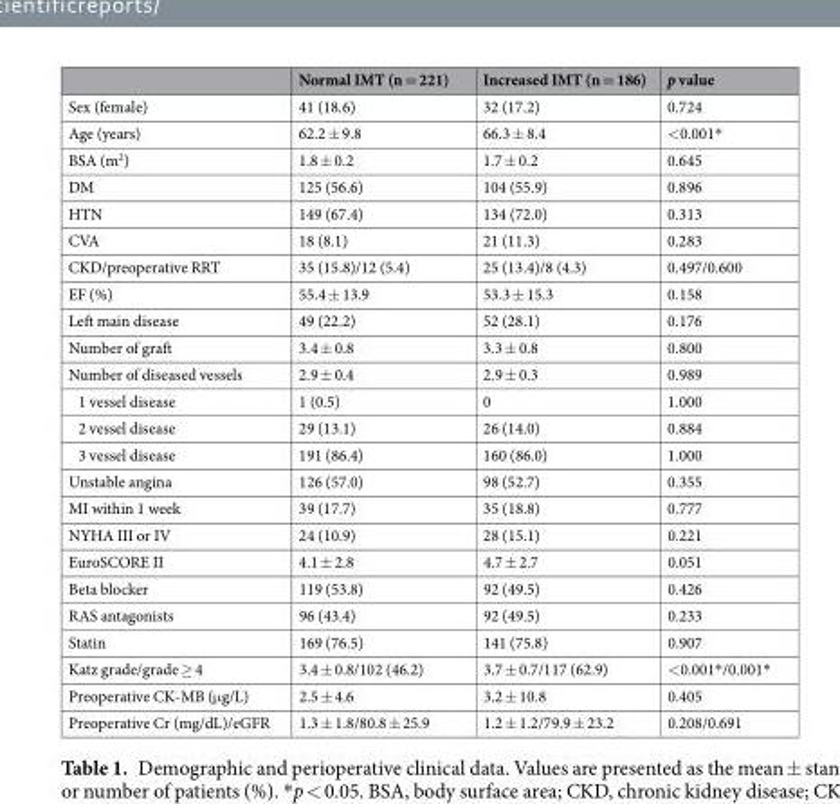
<table><thead><tr><td></td><td>Normal IMT (n = 221)</td><td>Increased IMT (n = 186)</td><td>p value</td></tr></thead><tbody><tr><td>Sex (female)</td><td>41 (18.6)</td><td>32 (17.2)</td><td>0.724</td></tr><tr><td>Age (years)</td><td>62.2 ± 9.8</td><td>66.3 ± 8.4</td><td>&lt;0.001*</td></tr><tr><td>BSA (m<sup>2</sup>)</td><td>1.8 ± 0.2</td><td>1.7 ± 0.2</td><td>0.645</td></tr><tr><td>DM</td><td>125 (56.6)</td><td>104 (55.9)</td><td>0.896</td></tr><tr><td>HTN</td><td>149 (67.4)</td><td>134 (72.0)</td><td>0.313</td></tr><tr><td>CVA</td><td>18 (8.1)</td><td>21 (11.3)</td><td>0.283</td></tr><tr><td>CKD/preoperative RRT</td><td>35 (15.8)/12 (5.4)</td><td>25 (13.4)/8 (4.3)</td><td>0.497/0.600</td></tr><tr><td>EF (%)</td><td>55.4 ± 13.9</td><td>53.3 ± 15.3</td><td>0.158</td></tr><tr><td>Left main disease</td><td>49 (22.2)</td><td>52 (28.1)</td><td>0.176</td></tr><tr><td>Number of graft</td><td>3.4 ± 0.8</td><td>3.3 ± 0.8</td><td>0.800</td></tr><tr><td>Number of diseased vessels</td><td>2.9 ± 0.4</td><td>2.9 ± 0.3</td><td>0.989</td></tr><tr><td>1 vessel disease</td><td>1 (0.5)</td><td>0</td><td>1.000</td></tr><tr><td>2 vessel disease</td><td>29 (13.1)</td><td>26 (14.0)</td><td>0.884</td></tr><tr><td>3 vessel disease</td><td>191 (86.4)</td><td>160 (86.0)</td><td>1.000</td></tr><tr><td>Unstable angina</td><td>126 (57.0)</td><td>98 (52.7)</td><td>0.355</td></tr><tr><td>MI within 1 week</td><td>39 (17.7)</td><td>35 (18.8)</td><td>0.777</td></tr><tr><td>NYHA III or IV</td><td>24 (10.9)</td><td>28 (15.1)</td><td>0.221</td></tr><tr><td>EuroSCORE II</td><td>4.1 ± 2.8</td><td>4.7 ± 2.7</td><td>0.051</td></tr><tr><td>Beta blocker</td><td>119 (53.8)</td><td>92 (49.5)</td><td>0.426</td></tr><tr><td>RAS antagonists</td><td>96 (43.4)</td><td>92 (49.5)</td><td>0.233</td></tr><tr><td>Statin</td><td>169 (76.5)</td><td>141 (75.8)</td><td>0.907</td></tr><tr><td>Katz grade/grade ≥ 4</td><td>3.4 ± 0.8/102 (46.2)</td><td>3.7 ± 0.7/117 (62.9)</td><td>&lt;0.001*/0.001*</td></tr><tr><td>Preoperative CK-MB (μg/L)</td><td>2.5 ± 4.6</td><td>3.2 ± 10.8</td><td>0.405</td></tr><tr><td>Preoperative Cr (mg/dL)/eGFR</td><td>1.3 ± 1.8/80.8 ± 25.9</td><td>1.2 ± 1.2/79.9 ± 23.2</td><td>0.208/0.691</td></tr></tbody></table>